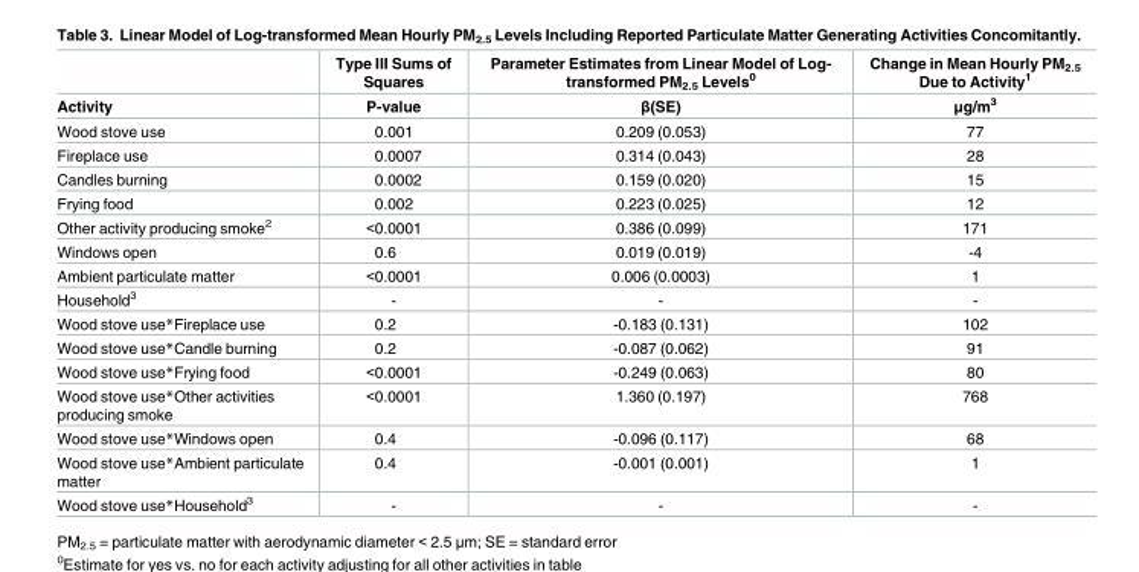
<table><thead><tr><td rowspan="2">Activity</td><td rowspan="2">Type III Sums of Squares P-value</td><td rowspan="2">Parameter Estimates from Linear Model of Log- transformed PM<sub>2.5</sub> Levels<sup>0</sup> β(SE)</td><td rowspan="2">Change in Mean Hourly PM<sub>2.5</sub> Due to Activity<sup>1</sup> μg/m<sup>3</sup></td></tr><tr></tr></thead><tbody><tr><td>Wood stove use</td><td>0.001</td><td>0.209 (0.053)</td><td>77</td></tr><tr><td>Fireplace use</td><td>0.0007</td><td>0.314 (0.043)</td><td>28</td></tr><tr><td>Candles burning</td><td>0.0002</td><td>0.159 (0.020)</td><td>15</td></tr><tr><td>Frying food</td><td>0.002</td><td>0.223 (0.025)</td><td>12</td></tr><tr><td>Other activity producing smoke<sup>2</sup></td><td>&lt;0.0001</td><td>0.386 (0.099)</td><td>171</td></tr><tr><td>Windows open</td><td>0.6</td><td>0.019 (0.019)</td><td>-4</td></tr><tr><td>Ambient particulate matter</td><td>&lt;0.0001</td><td>0.006 (0.0003)</td><td>1</td></tr><tr><td>Household<sup>3</sup></td><td>-</td><td>-</td><td>-</td></tr><tr><td>Wood stove use*Fireplace use</td><td>0.2</td><td>-0.183 (0.131)</td><td>102</td></tr><tr><td>Wood stove use*Candle burning</td><td>0.2</td><td>-0.087 (0.062)</td><td>91</td></tr><tr><td>Wood stove use*Frying food</td><td>&lt;0.0001</td><td>-0.249 (0.063)</td><td>80</td></tr><tr><td>Wood stove use*Other activities producing smoke</td><td>&lt;0.0001</td><td>1.360 (0.197)</td><td>768</td></tr><tr><td>Wood stove use*Windows open</td><td>0.4</td><td>-0.096 (0.117)</td><td>68</td></tr><tr><td>Wood stove use*Ambient particulate matter</td><td>0.4</td><td>-0.001 (0.001)</td><td>1</td></tr><tr><td>Wood stove use*Household<sup>3</sup></td><td>-</td><td>-</td><td>-</td></tr></tbody></table>